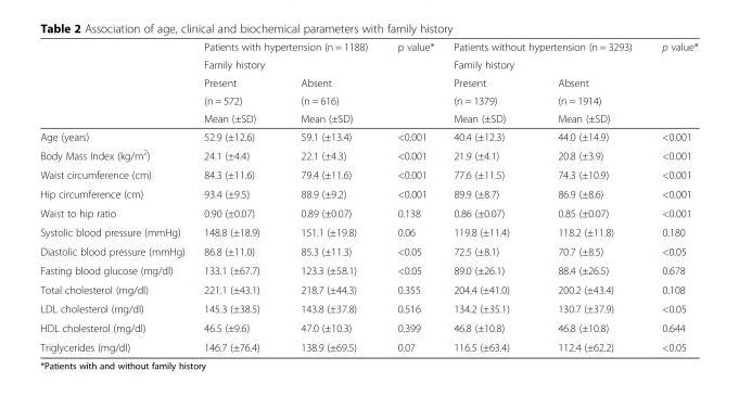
<table><thead><tr><td rowspan="5"></td><td rowspan="2" colspan="2">Patients with hypertension (n = 1188) Family history</td><td rowspan="5">p value*</td><td rowspan="2" colspan="2">Patients without hypertension (n = 3293) Family history</td><td rowspan="5">p value*</td></tr><tr></tr><tr><td rowspan="3">Present (n = 572) Mean (±SD)</td><td rowspan="3">Absent (n = 616) Mean (±SD)</td><td rowspan="3">Present (n = 1379) Mean (±SD)</td><td rowspan="3">Absent (n = 1914) Mean (±SD)</td></tr><tr></tr><tr></tr></thead><tbody><tr><td>Age (years)</td><td>52.9 (±12.6)</td><td>59.1 (±13.4)</td><td>&lt;0.001</td><td>40.4 (±12.3)</td><td>44.0 (±14.9)</td><td>&lt;0.001</td></tr><tr><td>Body Mass Index (kg/m<sup>2</sup>)</td><td>24.1 (±4.4)</td><td>22.1 (±4.3)</td><td>&lt;0.001</td><td>21.9 (±4.1)</td><td>20.8 (±3.9)</td><td>&lt;0.001</td></tr><tr><td>Waist circumference (cm)</td><td>84.3 (±11.6)</td><td>79.4 (±11.6)</td><td>&lt;0.001</td><td>77.6 (±11.5)</td><td>74.3 (±10.9)</td><td>&lt;0.001</td></tr><tr><td>Hip circumference (cm)</td><td>93.4 (±9.5)</td><td>88.9 (±9.2)</td><td>&lt;0.001</td><td>89.9 (±8.7)</td><td>86.9 (±8.6)</td><td>&lt;0.001</td></tr><tr><td>Waist to hip ratio</td><td>0.90 (±0.07)</td><td>0.89 (±0.07)</td><td>0.138</td><td>0.86 (±0.07)</td><td>0.85 (±0.07)</td><td>&lt;0.001</td></tr><tr><td>Systolic blood pressure (mmHg)</td><td>148.8 (±18.9)</td><td>151.1 (±19.8)</td><td>0.06</td><td>119.8 (±11.4)</td><td>118.2 (±11.8)</td><td>0.180</td></tr><tr><td>Diastolic blood pressure (mmHg)</td><td>86.8 (±11.0)</td><td>85.3 (±11.3)</td><td>&lt;0.05</td><td>72.5 (±8.1)</td><td>70.7 (±8.5)</td><td>&lt;0.05</td></tr><tr><td>Fasting blood glucose (mg/dl)</td><td>133.1 (±67.7)</td><td>123.3 (±58.1)</td><td>&lt;0.05</td><td>89.0 (±26.1)</td><td>88.4 (±26.5)</td><td>0.678</td></tr><tr><td>Total cholesterol (mg/dl)</td><td>221.1 (±43.1)</td><td>218.7 (±44.3)</td><td>0.355</td><td>204.4 (±41.0)</td><td>200.2 (±43.4)</td><td>0.108</td></tr><tr><td>LDL cholesterol (mg/dl)</td><td>145.3 (±38.5)</td><td>143.8 (±37.8)</td><td>0.516</td><td>134.2 (±35.1)</td><td>130.7 (±37.9)</td><td>&lt;0.05</td></tr><tr><td>HDL cholesterol (mg/dl)</td><td>46.5 (±9.6)</td><td>47.0 (±10.3)</td><td>0.399</td><td>46.8 (±10.8)</td><td>46.8 (±10.8)</td><td>0.644</td></tr><tr><td>Triglycerides (mg/dl)</td><td>146.7 (±76.4)</td><td>138.9 (±69.5)</td><td>0.07</td><td>116.5 (±63.4)</td><td>112.4 (±62.2)</td><td>&lt;0.05</td></tr></tbody></table>